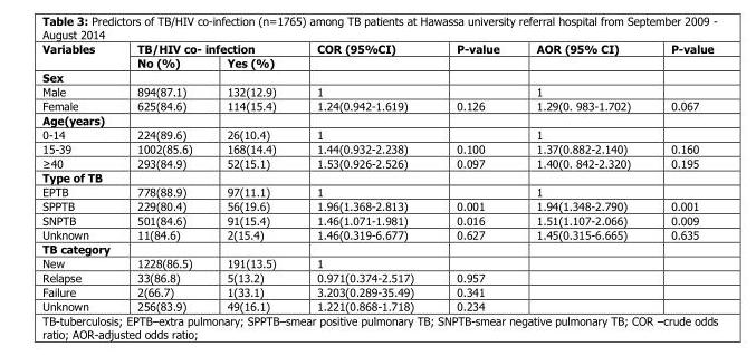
<table><thead><tr><td rowspan="2">Variables</td><td colspan="2">TB/HIV co- infection</td><td rowspan="2">COR (95%CI)</td><td rowspan="2">P-value</td><td rowspan="2">AOR (95% CI)</td><td rowspan="2">P-value</td></tr><tr><td>No (%)</td><td>Yes (%)</td></tr></thead><tbody><tr><td colspan="7">Sex</td></tr><tr><td>Male</td><td>894(87.1)</td><td>132(12.9)</td><td>1</td><td></td><td>1</td><td></td></tr><tr><td>Female</td><td>625(84.6)</td><td>114(15.4)</td><td>1.24(0.942-1.619)</td><td>0.126</td><td>1.29(0. 983-1.702)</td><td>0.067</td></tr><tr><td colspan="7">Age(years)</td></tr><tr><td>0-14</td><td>224(89.6)</td><td>26(10.4)</td><td>1</td><td></td><td>1</td><td></td></tr><tr><td>15-39</td><td>1002(85.6)</td><td>168(14.4)</td><td>1.44(0.932-2.238)</td><td>0.100</td><td>1.37(0.882-2.140)</td><td>0.160</td></tr><tr><td>≥40</td><td>293(84.9)</td><td>52(15.1)</td><td>1.53(0.926-2.526)</td><td>0.097</td><td>1.40(0. 842-2.320)</td><td>0.195</td></tr><tr><td colspan="7">Type of TB</td></tr><tr><td>EPTB</td><td>778(88.9)</td><td>97(11.1)</td><td>1</td><td></td><td>1</td><td></td></tr><tr><td>SPPTB</td><td>229(80.4)</td><td>56(19.6)</td><td>1.96(1.368-2.813)</td><td>0.001</td><td>1.94(1.348-2.790)</td><td>0.001</td></tr><tr><td>SNPTB</td><td>501(84.6)</td><td>91(15.4)</td><td>1.46(1.071-1.981)</td><td>0.016</td><td>1.51(1.107-2.066)</td><td>0.009</td></tr><tr><td>Unknown</td><td>11(84.6)</td><td>2(15.4)</td><td>1.46(0.319-6.677)</td><td>0.627</td><td>1.45(0.315-6.665)</td><td>0.635</td></tr><tr><td colspan="7">TB category</td></tr><tr><td>New</td><td>1228(86.5)</td><td>191(13.5)</td><td>1</td><td></td><td></td><td></td></tr><tr><td>Relapse</td><td>33(86.8)</td><td>5(13.2)</td><td>0.971(0.374-2.517)</td><td>0.957</td><td></td><td></td></tr><tr><td>Failure</td><td>2(66.7)</td><td>1(33.1)</td><td>3.203(0.289-35.49)</td><td>0.341</td><td></td><td></td></tr><tr><td>Unknown</td><td>256(83.9)</td><td>49(16.1)</td><td>1.221(0.868-1.718)</td><td>0.234</td><td></td><td></td></tr></tbody></table>